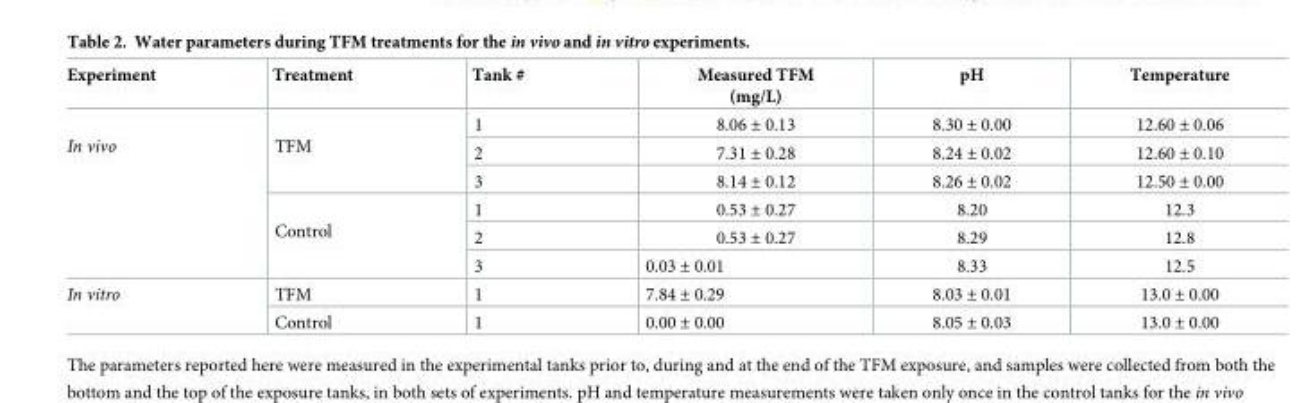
<table><thead><tr><td>Experiment</td><td>Treatment</td><td>Tank #</td><td>Measured TFM (mg/L)</td><td>pH</td><td>Temperature</td></tr></thead><tbody><tr><td rowspan="6">In vivo</td><td rowspan="3">TFM</td><td>1</td><td>8.06 ± 0.13</td><td>8.30 ± 0.00</td><td>12.60 ± 0.06</td></tr><tr><td>2</td><td>7.31 ± 0.28</td><td>8.24 ± 0.02</td><td>12.60 ± 0.10</td></tr><tr><td>3</td><td>8.14 ± 0.12</td><td>8.26 ± 0.02</td><td>12.50 ± 0.00</td></tr><tr><td rowspan="3">Control</td><td>1</td><td>0.53 ± 0.27</td><td>8.20</td><td>12.3</td></tr><tr><td>2</td><td>0.53 ± 0.27</td><td>8.29</td><td>12.8</td></tr><tr><td>3</td><td>0.03 ± 0.01</td><td>8.33</td><td>12.5</td></tr><tr><td rowspan="2">In vitro</td><td>TFM</td><td>1</td><td>7.84 ± 0.29</td><td>8.03 ± 0.01</td><td>13.0 ± 0.00</td></tr><tr><td>Control</td><td>1</td><td>0.00 ± 0.00</td><td>8.05 ± 0.03</td><td>13.0 ± 0.00</td></tr></tbody></table>